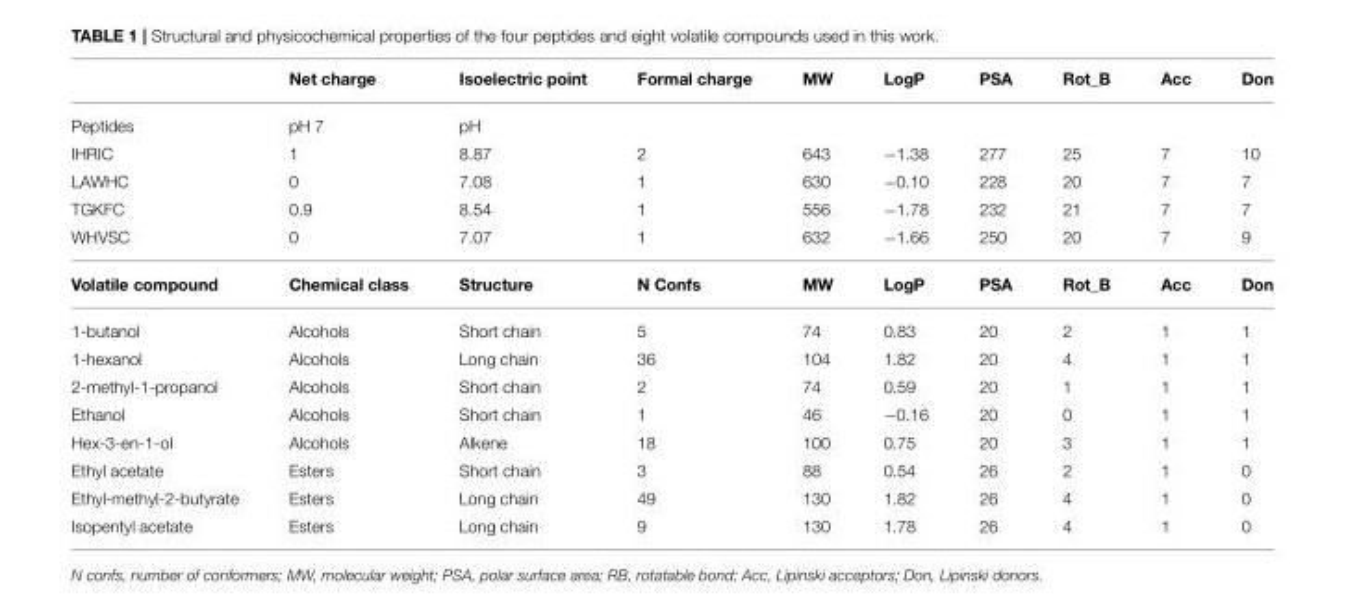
<table><thead><tr><td></td><td>Net charge</td><td>Isoelectric point</td><td>Formal charge</td><td>MW</td><td>LogP</td><td>PSA</td><td>Rot_B</td><td>Acc</td><td>Don</td></tr></thead><tbody><tr><td>Peptides</td><td>pH 7</td><td>pH</td><td></td><td></td><td></td><td></td><td></td><td></td><td></td></tr><tr><td>IHRIC</td><td>1</td><td>8.87</td><td>2</td><td>643</td><td>−1.38</td><td>277</td><td>25</td><td>7</td><td>10</td></tr><tr><td>LAWHC</td><td>0</td><td>7.08</td><td>1</td><td>630</td><td>−0.10</td><td>228</td><td>20</td><td>7</td><td>7</td></tr><tr><td>TGKFC</td><td>0.9</td><td>8.54</td><td>1</td><td>556</td><td>−1.78</td><td>232</td><td>21</td><td>7</td><td>7</td></tr><tr><td>WHVSC</td><td>0</td><td>7.07</td><td>1</td><td>632</td><td>−1.66</td><td>250</td><td>20</td><td>7</td><td>9</td></tr><tr><td>Volatile compound</td><td>Chemical class</td><td>Structure</td><td>N Confs</td><td>MW</td><td>LogP</td><td>PSA</td><td>Rot_B</td><td>Acc</td><td>Don</td></tr><tr><td>1-butanol</td><td>Alcohols</td><td>Short chain</td><td>5</td><td>74</td><td>0.83</td><td>20</td><td>2</td><td>1</td><td>1</td></tr><tr><td>1-hexanol</td><td>Alcohols</td><td>Long chain</td><td>36</td><td>104</td><td>1.82</td><td>20</td><td>4</td><td>1</td><td>1</td></tr><tr><td>2-methyl-1-propanol</td><td>Alcohols</td><td>Short chain</td><td>2</td><td>74</td><td>0.59</td><td>20</td><td>1</td><td>1</td><td>1</td></tr><tr><td>Ethanol</td><td>Alcohols</td><td>Short chain</td><td>1</td><td>46</td><td>−0.16</td><td>20</td><td>0</td><td>1</td><td>1</td></tr><tr><td>Hex-3-en-1-ol</td><td>Alcohols</td><td>Alkene</td><td>18</td><td>100</td><td>0.75</td><td>20</td><td>3</td><td>1</td><td>1</td></tr><tr><td>Ethyl acetate</td><td>Esters</td><td>Short chain</td><td>3</td><td>88</td><td>0.54</td><td>26</td><td>2</td><td>1</td><td>0</td></tr><tr><td>Ethyl-methyl-2-butyrate</td><td>Esters</td><td>Long chain</td><td>49</td><td>130</td><td>1.82</td><td>26</td><td>4</td><td>1</td><td>0</td></tr><tr><td>Isopentyl acetate</td><td>Esters</td><td>Long chain</td><td>9</td><td>130</td><td>1.78</td><td>26</td><td>4</td><td>1</td><td>0</td></tr></tbody></table>